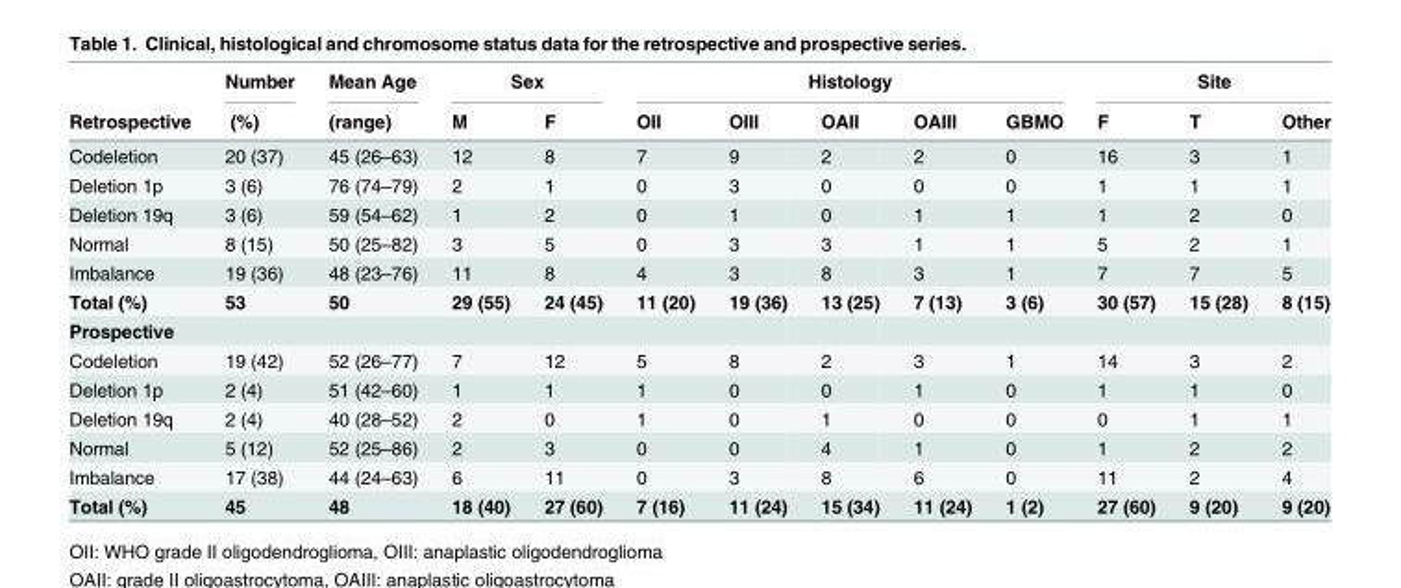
<table><thead><tr><td rowspan="2">Retrospective</td><td rowspan="2">Number (%)</td><td rowspan="2">Mean Age (range)</td><td colspan="2">Sex</td><td colspan="5">Histology</td><td colspan="3">Site</td></tr><tr><td>M</td><td>F</td><td>OII</td><td>OIII</td><td>OAII</td><td>OAIII</td><td>GBMO</td><td>F</td><td>T</td><td>Other</td></tr></thead><tbody><tr><td>Codeletion</td><td>20 (37)</td><td>45 (26–63)</td><td>12</td><td>8</td><td>7</td><td>9</td><td>2</td><td>2</td><td>0</td><td>16</td><td>3</td><td>1</td></tr><tr><td>Deletion 1p</td><td>3 (6)</td><td>76 (74–79)</td><td>2</td><td>1</td><td>0</td><td>3</td><td>0</td><td>0</td><td>0</td><td>1</td><td>1</td><td>1</td></tr><tr><td>Deletion 19q</td><td>3 (6)</td><td>59 (54–62)</td><td>1</td><td>2</td><td>0</td><td>1</td><td>0</td><td>1</td><td>1</td><td>1</td><td>2</td><td>0</td></tr><tr><td>Normal</td><td>8 (15)</td><td>50 (25–82)</td><td>3</td><td>5</td><td>0</td><td>3</td><td>3</td><td>1</td><td>1</td><td>5</td><td>2</td><td>1</td></tr><tr><td>Imbalance</td><td>19 (36)</td><td>48 (23–76)</td><td>11</td><td>8</td><td>4</td><td>3</td><td>8</td><td>3</td><td>1</td><td>7</td><td>7</td><td>5</td></tr><tr><td>Total (%)</td><td>53</td><td>50</td><td>29 (55)</td><td>24 (45)</td><td>11 (20)</td><td>19 (36)</td><td>13 (25)</td><td>7 (13)</td><td>3 (6)</td><td>30 (57)</td><td>15 (28)</td><td>8 (15)</td></tr><tr><td colspan="13">Prospective</td></tr><tr><td>Codeletion</td><td>19 (42)</td><td>52 (26–77)</td><td>7</td><td>12</td><td>5</td><td>8</td><td>2</td><td>3</td><td>1</td><td>14</td><td>3</td><td>2</td></tr><tr><td>Deletion 1p</td><td>2 (4)</td><td>51 (42–60)</td><td>1</td><td>1</td><td>1</td><td>0</td><td>0</td><td>1</td><td>0</td><td>1</td><td>1</td><td>0</td></tr><tr><td>Deletion 19q</td><td>2 (4)</td><td>40 (28–52)</td><td>2</td><td>0</td><td>1</td><td>0</td><td>1</td><td>0</td><td>0</td><td>0</td><td>1</td><td>1</td></tr><tr><td>Normal</td><td>5 (12)</td><td>52 (25–86)</td><td>2</td><td>3</td><td>0</td><td>0</td><td>4</td><td>1</td><td>0</td><td>1</td><td>2</td><td>2</td></tr><tr><td>Imbalance</td><td>17 (38)</td><td>44 (24–63)</td><td>6</td><td>11</td><td>0</td><td>3</td><td>8</td><td>6</td><td>0</td><td>11</td><td>2</td><td>4</td></tr><tr><td>Total (%)</td><td>45</td><td>48</td><td>18 (40)</td><td>27 (60)</td><td>7 (16)</td><td>11 (24)</td><td>15 (34)</td><td>11 (24)</td><td>1 (2)</td><td>27 (60)</td><td>9 (20)</td><td>9 (20)</td></tr></tbody></table>